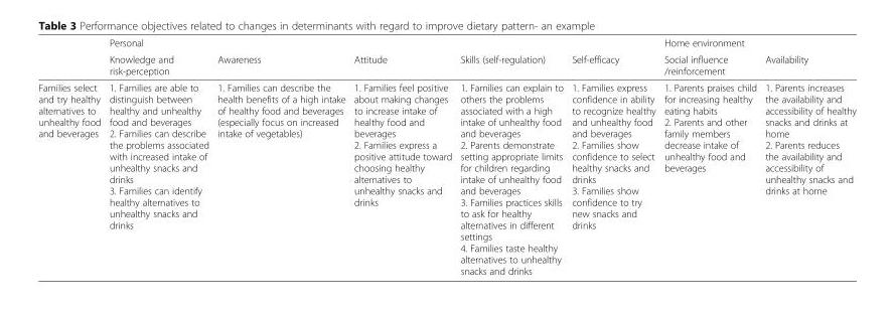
<table><thead><tr><td rowspan="2"></td><td rowspan="2">Personal Knowledge and risk-perception</td><td rowspan="2">Awareness</td><td rowspan="2">Attitude</td><td rowspan="2">Skills (self-regulation)</td><td rowspan="2">Self-efficacy</td><td rowspan="2">Home environment Social influence /reinforcement</td><td rowspan="2">Availability</td></tr><tr></tr></thead><tbody><tr><td>Families select and try healthy alternatives to unhealthy food and beverages</td><td>1. Families are able to distinguish between healthy and unhealthy food and beverages 2. Families can describe the problems associated with increased intake of unhealthy snacks and drinks 3. Families can identify healthy alternatives to unhealthy snacks and drinks</td><td>1. Families can describe the health benefits of a high intake of healthy food and beverages (especially focus on increased intake of vegetables)</td><td>1. Families feel positive about making changes to increase intake of healthy food and beverages 2. Families express a positive attitude toward choosing healthy alternatives to unhealthy snacks and drinks</td><td>1. Families can explain to others the problems associated with a high intake of unhealthy food and beverages 2. Parents demonstrate setting appropriate limits for children regarding intake of unhealthy food and beverages 3. Families practices skills to ask for healthy alternatives in different settings 4. Families taste healthy alternatives to unhealthy snacks and drinks</td><td>1. Families express confidence in ability to recognize healthy and unhealthy food and beverages 2. Families show confidence to select healthy snacks and drinks 3. Families show confidence to try new snacks and drinks</td><td>1. Parents praises child for increasing healthy eating habits 2. Parents and other family members decrease intake of unhealthy food and beverages</td><td>1. Parents increases the availability and accessibility of healthy snacks and drinks at home 2. Parents reduces the availability and accessibility of unhealthy snacks and drinks at home</td></tr></tbody></table>